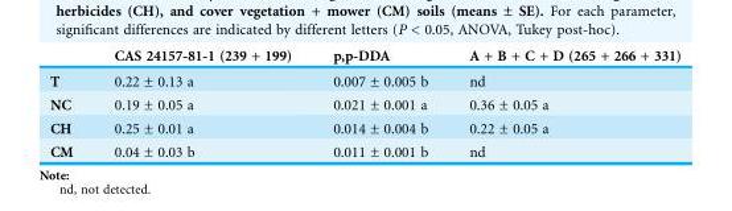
<table><thead><tr><td></td><td>CAS 24157-81-1 (239 + 199)</td><td>p,p-DDA</td><td>A + B + C + D (265 + 266 + 331)</td></tr></thead><tbody><tr><td>T</td><td>0.22 ± 0.13 a</td><td>0.007 ± 0.005 b</td><td>nd</td></tr><tr><td>NC</td><td>0.19 ± 0.05 a</td><td>0.021 ± 0.001 a</td><td>0.36 ± 0.05 a</td></tr><tr><td>CH</td><td>0.25 ± 0.01 a</td><td>0.014 ± 0.004 b</td><td>0.22 ± 0.05 a</td></tr><tr><td>CM</td><td>0.04 ± 0.03 b</td><td>0.011 ± 0.001 b</td><td>nd</td></tr></tbody></table>